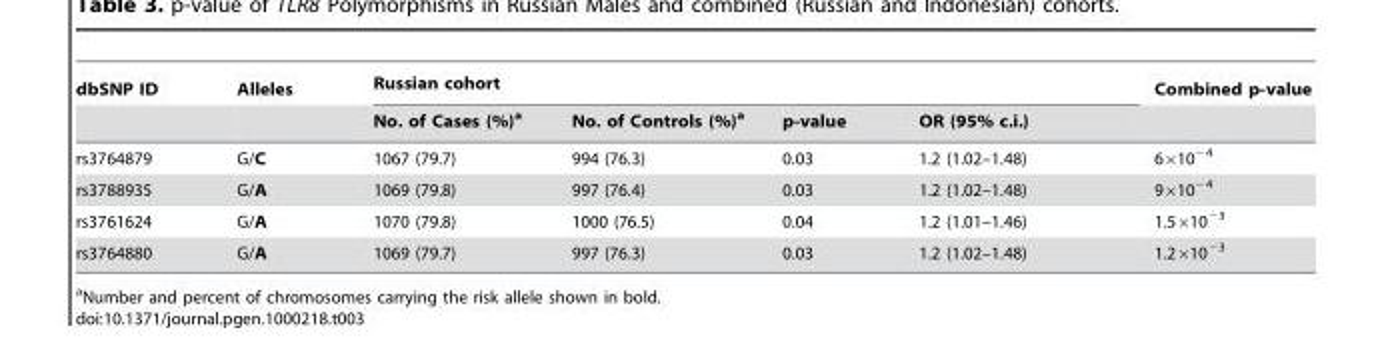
<table><thead><tr><td rowspan="2">dbSNP ID</td><td rowspan="2">Alleles</td><td colspan="4">Russian cohort</td><td rowspan="2">Combined p-value</td></tr><tr><td>No. of Cases (%)<sup>a</sup></td><td>No. of Controls (%)<sup>a</sup></td><td>p-value</td><td>OR (95% c.i.)</td></tr></thead><tbody><tr><td>rs3764879</td><td>G/C</td><td>1067 (79.7)</td><td>994 (76.3)</td><td>0.03</td><td>1.2 (1.02–1.48)</td><td>6×10<sup>−4</sup></td></tr><tr><td>rs3788935</td><td>G/A</td><td>1069 (79.8)</td><td>997 (76.4)</td><td>0.03</td><td>1.2 (1.02–1.48)</td><td>9×10<sup>−4</sup></td></tr><tr><td>rs3761624</td><td>G/A</td><td>1070 (79.8)</td><td>1000 (76.5)</td><td>0.04</td><td>1.2 (1.01–1.46)</td><td>1.5×10<sup>−3</sup></td></tr><tr><td>rs3764880</td><td>G/A</td><td>1069 (79.7)</td><td>997 (76.3)</td><td>0.03</td><td>1.2 (1.02–1.48)</td><td>1.2×10<sup>−3</sup></td></tr></tbody></table>